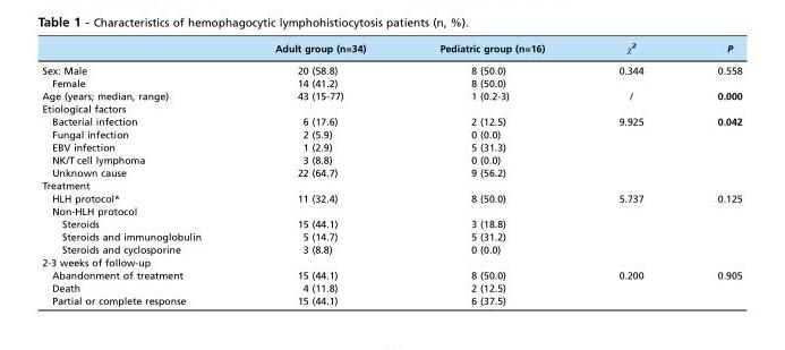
<table><thead><tr><td></td><td>Adult group (n=34)</td><td>Pediatric group (n=16)</td><td>χ<sup>2</sup></td><td>P</td></tr></thead><tbody><tr><td>Sex: Male</td><td>20 (58.8)</td><td>8 (50.0)</td><td rowspan="2">0.344</td><td rowspan="2">0.558</td></tr><tr><td>Female</td><td>14 (41.2)</td><td>8 (50.0)</td></tr><tr><td>Age (years; median, range)</td><td>43 (15-77)</td><td>1 (0.2-3)</td><td>/</td><td>0.000</td></tr><tr><td colspan="5">Etiological factors</td></tr><tr><td>Bacterial infection</td><td>6 (17.6)</td><td>2 (12.5)</td><td rowspan="5">9.925</td><td rowspan="5">0.042</td></tr><tr><td>Fungal infection</td><td>2 (5.9)</td><td>0 (0.0)</td></tr><tr><td>EBV infection</td><td>1 (2.9)</td><td>5 (31.3)</td></tr><tr><td>NK/T cell lymphoma</td><td>3 (8.8)</td><td>0 (0.0)</td></tr><tr><td>Unknown cause</td><td>22 (64.7)</td><td>9 (56.2)</td></tr><tr><td colspan="5">Treatment</td></tr><tr><td>HLH protocol*</td><td>11 (32.4)</td><td>8 (50.0)</td><td rowspan="5">5.737</td><td rowspan="5">0.125</td></tr><tr><td colspan="3">Non-HLH protocol</td></tr><tr><td>Steroids</td><td>15 (44.1)</td><td>3 (18.8)</td></tr><tr><td>Steroids and immunoglobulin</td><td>5 (14.7)</td><td>5 (31.2)</td></tr><tr><td>Steroids and cyclosporine</td><td>3 (8.8)</td><td>0 (0.0)</td></tr><tr><td colspan="5">2-3 weeks of follow-up</td></tr><tr><td>Abandonment of treatment</td><td>15 (44.1)</td><td>8 (50.0)</td><td>0.200</td><td>0.905</td></tr><tr><td>Death</td><td>4 (11.8)</td><td>2 (12.5)</td><td></td><td></td></tr><tr><td>Partial or complete response</td><td>15 (44.1)</td><td>6 (37.5)</td><td></td><td></td></tr></tbody></table>